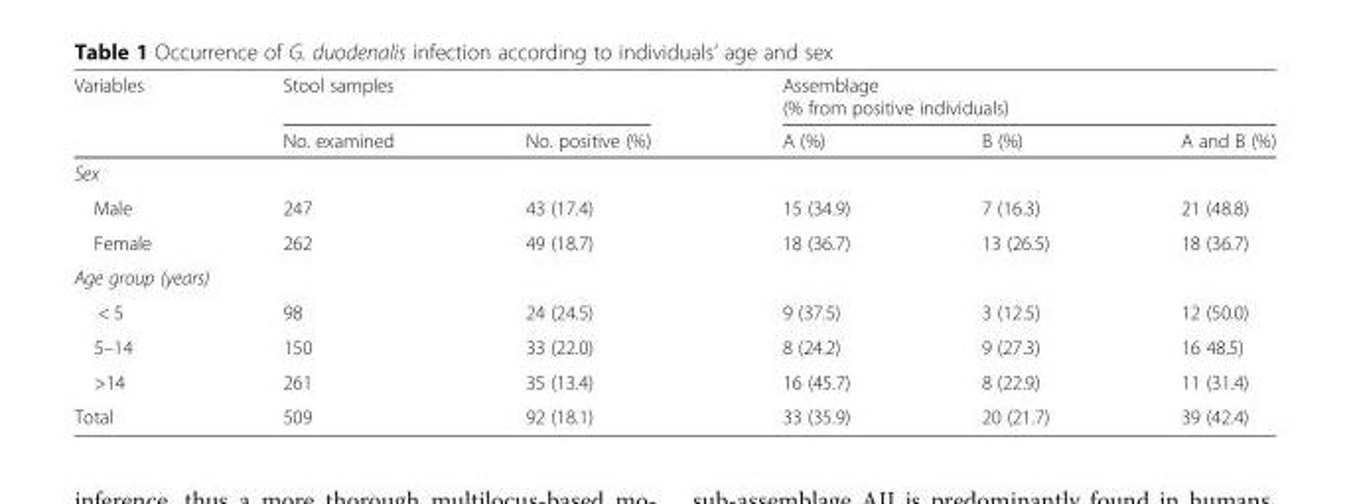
<table><thead><tr><td rowspan="2">Variables</td><td colspan="2">Stool samples</td><td colspan="3">Assemblage (% from positive individuals)</td></tr><tr><td>No. examined</td><td>No. positive (%)</td><td>A (%)</td><td>B (%)</td><td>A and B (%)</td></tr></thead><tbody><tr><td colspan="6">Sex</td></tr><tr><td>Male</td><td>247</td><td>43 (17.4)</td><td>15 (34.9)</td><td>7 (16.3)</td><td>21 (48.8)</td></tr><tr><td>Female</td><td>262</td><td>49 (18.7)</td><td>18 (36.7)</td><td>13 (26.5)</td><td>18 (36.7)</td></tr><tr><td colspan="6">Age group (years)</td></tr><tr><td>&lt; 5</td><td>98</td><td>24 (24.5)</td><td>9 (37.5)</td><td>3 (12.5)</td><td>12 (50.0)</td></tr><tr><td>5–14</td><td>150</td><td>33 (22.0)</td><td>8 (24.2)</td><td>9 (27.3)</td><td>16 48.5)</td></tr><tr><td>&gt;14</td><td>261</td><td>35 (13.4)</td><td>16 (45.7)</td><td>8 (22.9)</td><td>11 (31.4)</td></tr><tr><td>Total</td><td>509</td><td>92 (18.1)</td><td>33 (35.9)</td><td>20 (21.7)</td><td>39 (42.4)</td></tr></tbody></table>